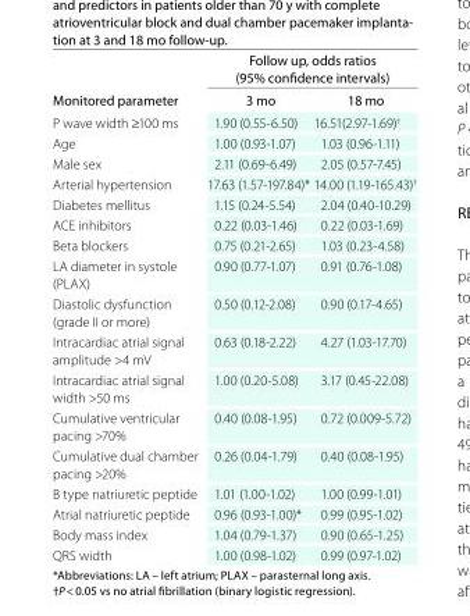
<table><thead><tr><td rowspan="2">Monitored parameter</td><td colspan="2">Follow up, odds ratios (95% confidence intervals)</td></tr><tr><td>3 mo</td><td>18 mo</td></tr></thead><tbody><tr><td>P wave width ≥100 ms</td><td>1.90 (0.55-6.50)</td><td>16.51(2.97-1.69)<sup>†</sup></td></tr><tr><td>Age</td><td>1.00 (0.93-1.07)</td><td>1.03 (0.96-1.11)</td></tr><tr><td>Male sex</td><td>2.11 (0.69-6.49)</td><td>2.05 (0.57-7.45)</td></tr><tr><td>Arterial hypertension</td><td>17.63 (1.57-197.84)*</td><td>14.00 (1.19-165.43)<sup>†</sup></td></tr><tr><td>Diabetes mellitus</td><td>1.15 (0.24-5.54)</td><td>2.04 (0.40-10.29)</td></tr><tr><td>ACE inhibitors</td><td>0.22 (0.03-1.46)</td><td>0.22 (0.03-1.69)</td></tr><tr><td>Beta blockers</td><td>0.75 (0.21-2.65)</td><td>1.03 (0.23-4.58)</td></tr><tr><td>LA diameter in systole (PLAX)</td><td>0.90 (0.77-1.07)</td><td>0.91 (0.76-1.08)</td></tr><tr><td>Diastolic dysfunction (grade II or more)</td><td>0.50 (0.12-2.08)</td><td>0.90 (0.17-4.65)</td></tr><tr><td>Intracardiac atrial signal amplitude &gt;4 mV</td><td>0.63 (0.18-2.22)</td><td>4.27 (1.03-17.70)</td></tr><tr><td>Intracardiac atrial signal width &gt;50 ms</td><td>1.00 (0.20-5.08)</td><td>3.17 (0.45-22.08)</td></tr><tr><td>Cumulative ventricular pacing &gt;70%</td><td>0.40 (0.08-1.95)</td><td>0.72 (0.009-5.72)</td></tr><tr><td>Cumulative dual chamber pacing &gt;20%</td><td>0.26 (0.04-1.79)</td><td>0.40 (0.08-1.95)</td></tr><tr><td>B type natriuretic peptide</td><td>1.01 (1.00-1.02)</td><td>1.00 (0.99-1.01)</td></tr><tr><td>Atrial natriuretic peptide</td><td>0.96 (0.93-1.00)*</td><td>0.99 (0.95-1.02)</td></tr><tr><td>Body mass index</td><td>1.04 (0.79-1.37)</td><td>0.90 (0.65-1.25)</td></tr><tr><td>QRS width</td><td>1.00 (0.98-1.02)</td><td>0.99 (0.97-1.02)</td></tr></tbody></table>